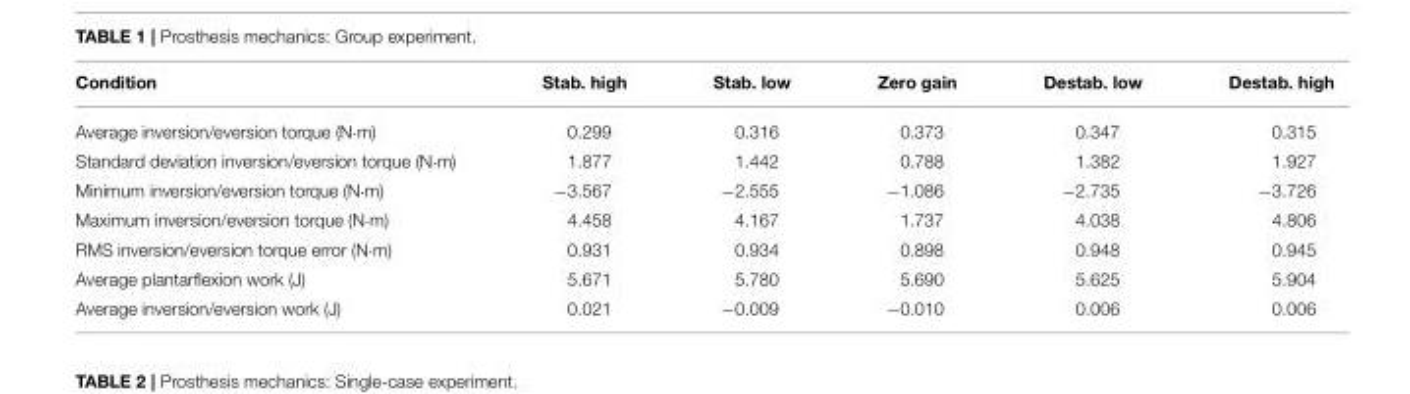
<table><thead><tr><td>Condition</td><td>Stab. high</td><td>Stab. low</td><td>Zero gain</td><td>Destab. low</td><td>Destab. high</td></tr></thead><tbody><tr><td>Average inversion/eversion torque (N·m)</td><td>0.299</td><td>0.316</td><td>0.373</td><td>0.347</td><td>0.315</td></tr><tr><td>Standard deviation inversion/eversion torque (N·m)</td><td>1.877</td><td>1.442</td><td>0.788</td><td>1.382</td><td>1.927</td></tr><tr><td>Minimum inversion/eversion torque (N·m)</td><td>−3.567</td><td>−2.555</td><td>−1.086</td><td>−2.735</td><td>−3.726</td></tr><tr><td>Maximum inversion/eversion torque (N·m)</td><td>4.458</td><td>4.167</td><td>1.737</td><td>4.038</td><td>4.806</td></tr><tr><td>RMS inversion/eversion torque error (N·m)</td><td>0.931</td><td>0.934</td><td>0.898</td><td>0.948</td><td>0.945</td></tr><tr><td>Average plantarflexion work (J)</td><td>5.671</td><td>5.780</td><td>5.690</td><td>5.625</td><td>5.904</td></tr><tr><td>Average inversion/eversion work (J)</td><td>0.021</td><td>−0.009</td><td>−0.010</td><td>0.006</td><td>0.006</td></tr></tbody></table>